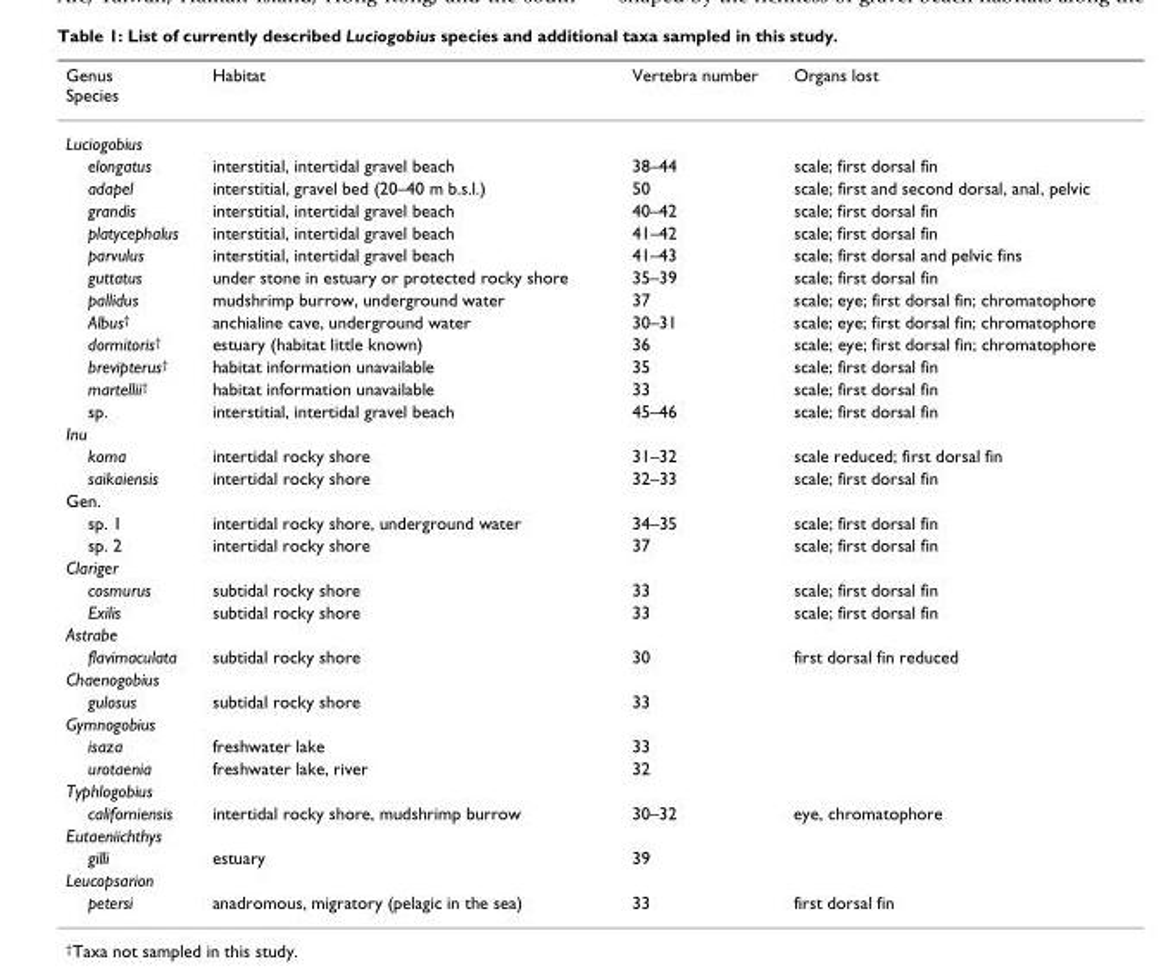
<table><thead><tr><td>Genus Species</td><td>Habitat</td><td>Vertebra number</td><td>Organs lost</td></tr></thead><tbody><tr><td colspan="4">Luciogobius</td></tr><tr><td>elongatus</td><td>interstitial, intertidal gravel beach</td><td>38–44</td><td>scale; first dorsal fin</td></tr><tr><td>adapel</td><td>interstitial, gravel bed (20–40 m b.s.l.)</td><td>50</td><td>scale; first and second dorsal, anal, pelvic</td></tr><tr><td>grandis</td><td>interstitial, intertidal gravel beach</td><td>40–42</td><td>scale; first dorsal fin</td></tr><tr><td>platycephalus</td><td>interstitial, intertidal gravel beach</td><td>41–42</td><td>scale; first dorsal fin</td></tr><tr><td>parvulus</td><td>interstitial, intertidal gravel beach</td><td>41–43</td><td>scale; first dorsal and pelvic fins</td></tr><tr><td>guttatus</td><td>under stone in estuary or protected rocky shore</td><td>35–39</td><td>scale; first dorsal fin</td></tr><tr><td>pallidus</td><td>mudshrimp burrow, underground water</td><td>37</td><td>scale; eye; first dorsal fin; chromatophore</td></tr><tr><td>Albus<sup>†</sup></td><td>anchialine cave, underground water</td><td>30–31</td><td>scale; eye; first dorsal fin; chromatophore</td></tr><tr><td>dormitoris<sup>†</sup></td><td>estuary (habitat little known)</td><td>36</td><td>scale; eye; first dorsal fin; chromatophore</td></tr><tr><td>brevipterus<sup>†</sup></td><td>habitat information unavailable</td><td>35</td><td>scale; first dorsal fin</td></tr><tr><td>martellii<sup>†</sup></td><td>habitat information unavailable</td><td>33</td><td>scale; first dorsal fin</td></tr><tr><td>sp.</td><td>interstitial, intertidal gravel beach</td><td>45–46</td><td>scale; first dorsal fin</td></tr><tr><td colspan="4">Inu</td></tr><tr><td>koma</td><td>intertidal rocky shore</td><td>31–32</td><td>scale reduced; first dorsal fin</td></tr><tr><td>saikaiensis</td><td>intertidal rocky shore</td><td>32–33</td><td>scale; first dorsal fin</td></tr><tr><td colspan="4">Gen.</td></tr><tr><td>sp. 1</td><td>intertidal rocky shore, underground water</td><td>34–35</td><td>scale; first dorsal fin</td></tr><tr><td>sp. 2</td><td>intertidal rocky shore</td><td>37</td><td>scale; first dorsal fin</td></tr><tr><td colspan="4">Clariger</td></tr><tr><td>cosmurus</td><td>subtidal rocky shore</td><td>33</td><td>scale; first dorsal fin</td></tr><tr><td>Exilis</td><td>subtidal rocky shore</td><td>33</td><td>scale; first dorsal fin</td></tr><tr><td colspan="4">Astrabe</td></tr><tr><td>flavimaculata</td><td>subtidal rocky shore</td><td>30</td><td>first dorsal fin reduced</td></tr><tr><td colspan="4">Chaenogobius</td></tr><tr><td>gulosus</td><td>subtidal rocky shore</td><td>33</td><td></td></tr><tr><td colspan="4">Gymnogobius</td></tr><tr><td>isaza</td><td>freshwater lake</td><td>33</td><td></td></tr><tr><td>urotaenia</td><td>freshwater lake, river</td><td>32</td><td></td></tr><tr><td colspan="4">Typhlogobius</td></tr><tr><td>californiensis</td><td>intertidal rocky shore, mudshrimp burrow</td><td>30–32</td><td>eye, chromatophore</td></tr><tr><td colspan="4">Eutaeniichthys</td></tr><tr><td>gilli</td><td>estuary</td><td>39</td><td></td></tr><tr><td colspan="4">Leucopsarion</td></tr><tr><td>petersi</td><td>anadromous, migratory (pelagic in the sea)</td><td>33</td><td>first dorsal fin</td></tr></tbody></table>